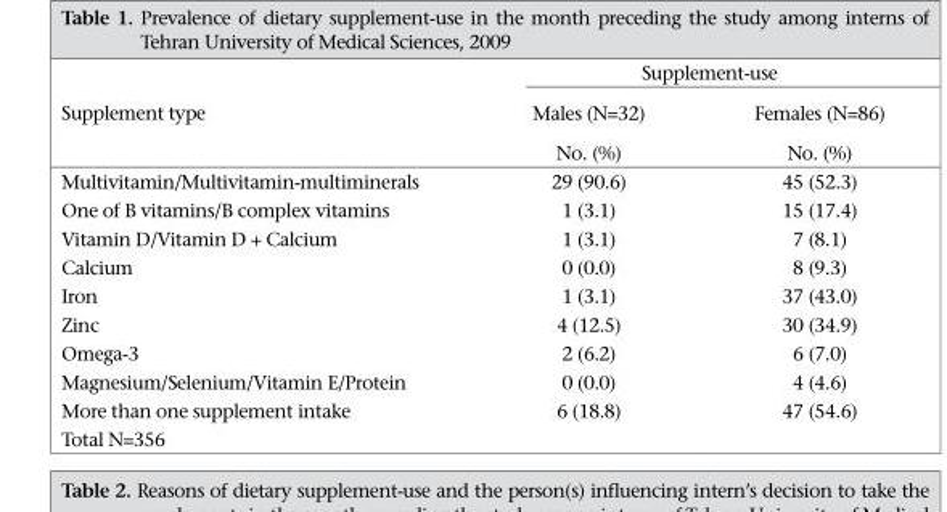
<table><thead><tr><td rowspan="3">Supplement type</td><td colspan="2">Supplement-use</td></tr><tr><td rowspan="2">Males (N=32) No. (%)</td><td rowspan="2">Females (N=86) No. (%)</td></tr><tr></tr></thead><tbody><tr><td>Multivitamin/Multivitamin-multiminerals</td><td>29 (90.6)</td><td>45 (52.3)</td></tr><tr><td>One of B vitamins/B complex vitamins</td><td>1 (3.1)</td><td>15 (17.4)</td></tr><tr><td>Vitamin D/Vitamin D + Calcium</td><td>1 (3.1)</td><td>7 (8.1)</td></tr><tr><td>Calcium</td><td>0 (0.0)</td><td>8 (9.3)</td></tr><tr><td>Iron</td><td>1 (3.1)</td><td>37 (43.0)</td></tr><tr><td>Zinc</td><td>4 (12.5)</td><td>30 (34.9)</td></tr><tr><td>Omega-3</td><td>2 (6.2)</td><td>6 (7.0)</td></tr><tr><td>Magnesium/Selenium/Vitamin E/Protein</td><td>0 (0.0)</td><td>4 (4.6)</td></tr><tr><td>More than one supplement intake</td><td>6 (18.8)</td><td>47 (54.6)</td></tr><tr><td>Total N=356</td><td></td><td></td></tr></tbody></table>